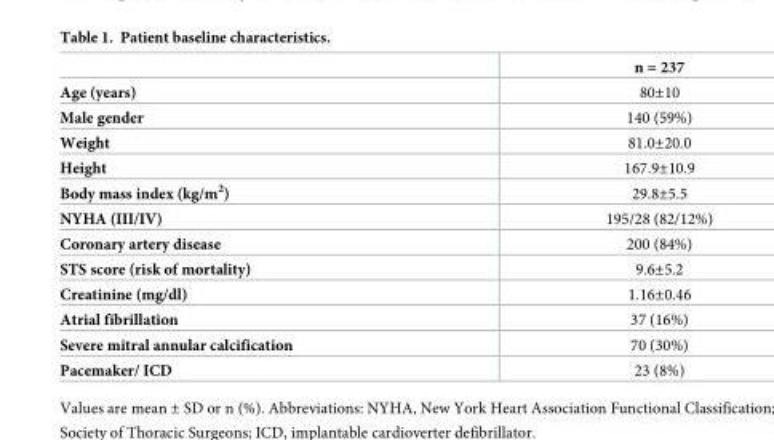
<table><thead><tr><td></td><td>n = 237</td></tr></thead><tbody><tr><td>Age (years)</td><td>80±10</td></tr><tr><td>Male gender</td><td>140 (59%)</td></tr><tr><td>Weight</td><td>81.0±20.0</td></tr><tr><td>Height</td><td>167.9±10.9</td></tr><tr><td>Body mass index (kg/m<sup>2</sup>)</td><td>29.8±5.5</td></tr><tr><td>NYHA (III/IV)</td><td>195/28 (82/12%)</td></tr><tr><td>Coronary artery disease</td><td>200 (84%)</td></tr><tr><td>STS score (risk of mortality)</td><td>9.6±5.2</td></tr><tr><td>Creatinine (mg/dl)</td><td>1.16±0.46</td></tr><tr><td>Atrial fibrillation</td><td>37 (16%)</td></tr><tr><td>Severe mitral annular calcification</td><td>70 (30%)</td></tr><tr><td>Pacemaker/ ICD</td><td>23 (8%)</td></tr></tbody></table>